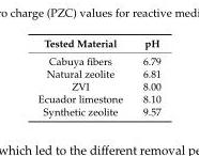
<table><thead><tr><td>Tested Material</td><td>pH</td></tr></thead><tbody><tr><td>Cabuya fibers</td><td>6.79</td></tr><tr><td>Natural zeolite</td><td>6.81</td></tr><tr><td>ZVI</td><td>8.00</td></tr><tr><td>Ecuador limestone</td><td>8.10</td></tr><tr><td>Synthetic zeolite</td><td>9.57</td></tr></tbody></table>